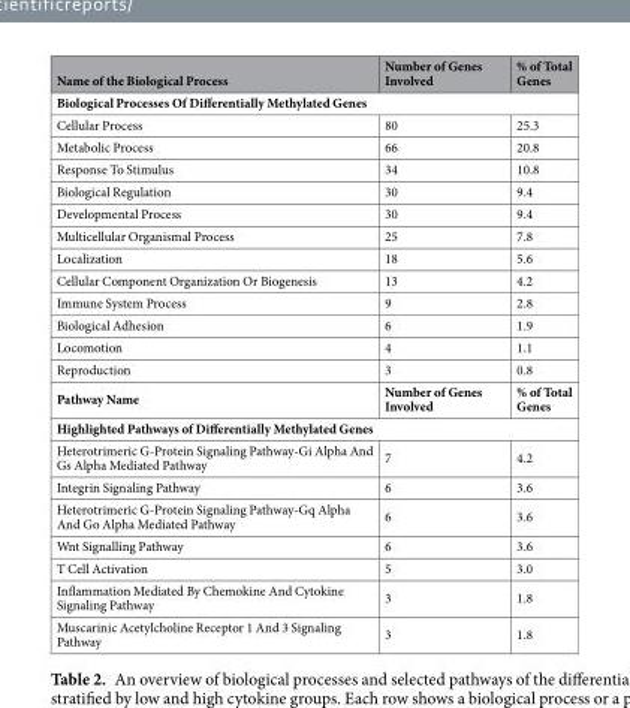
<table><thead><tr><td>Name of the Biological Process</td><td>Number of Genes Involved</td><td>% of Total Genes</td></tr></thead><tbody><tr><td colspan="3">Biological Processes Of Differentially Methylated Genes</td></tr><tr><td>Cellular Process</td><td>80</td><td>25.3</td></tr><tr><td>Metabolic Process</td><td>66</td><td>20.8</td></tr><tr><td>Response To Stimulus</td><td>34</td><td>10.8</td></tr><tr><td>Biological Regulation</td><td>30</td><td>9.4</td></tr><tr><td>Developmental Process</td><td>30</td><td>9.4</td></tr><tr><td>Multicellular Organismal Process</td><td>25</td><td>7.8</td></tr><tr><td>Localization</td><td>18</td><td>5.6</td></tr><tr><td>Cellular Component Organization Or Biogenesis</td><td>13</td><td>4.2</td></tr><tr><td>Immune System Process</td><td>9</td><td>2.8</td></tr><tr><td>Biological Adhesion</td><td>6</td><td>1.9</td></tr><tr><td>Locomotion</td><td>4</td><td>1.1</td></tr><tr><td>Reproduction</td><td>3</td><td>0.8</td></tr><tr><td>Pathway Name</td><td>Number of Genes Involved</td><td>% of Total Genes</td></tr><tr><td colspan="3">Highlighted Pathways of Differentially Methylated Genes</td></tr><tr><td>Heterotrimeric G-Protein Signaling Pathway-Gi Alpha And Gs Alpha Mediated Pathway</td><td>7</td><td>4.2</td></tr><tr><td>Integrin Signaling Pathway</td><td>6</td><td>3.6</td></tr><tr><td>Heterotrimeric G-Protein Signaling Pathway-Gq Alpha And Go Alpha Mediated Pathway</td><td>6</td><td>3.6</td></tr><tr><td>Wnt Signalling Pathway</td><td>6</td><td>3.6</td></tr><tr><td>T Cell Activation</td><td>5</td><td>3.0</td></tr><tr><td>Inflammation Mediated By Chemokine And Cytokine Signaling Pathway</td><td>3</td><td>1.8</td></tr><tr><td>Muscarinic Acetylcholine Receptor 1 And 3 Signaling Pathway</td><td>3</td><td>1.8</td></tr></tbody></table>